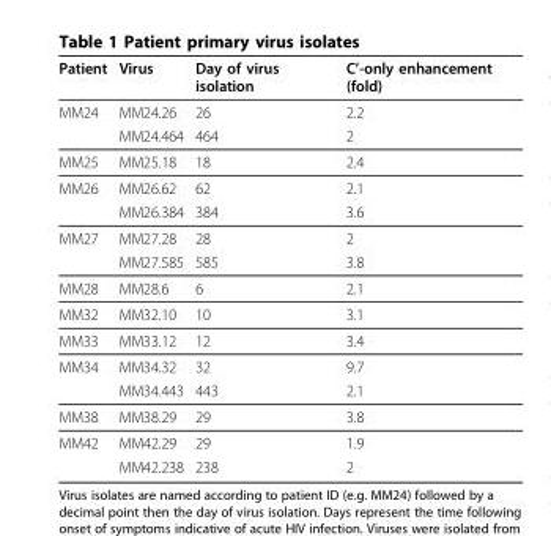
<table><thead><tr><td>Patient</td><td>Virus</td><td>Day of virus isolation</td><td>C’-only enhancement (fold)</td></tr></thead><tbody><tr><td rowspan="2">MM24</td><td>MM24.26</td><td>26</td><td>2.2</td></tr><tr><td>MM24.464</td><td>464</td><td>2</td></tr><tr><td>MM25</td><td>MM25.18</td><td>18</td><td>2.4</td></tr><tr><td rowspan="2">MM26</td><td>MM26.62</td><td>62</td><td>2.1</td></tr><tr><td>MM26.384</td><td>384</td><td>3.6</td></tr><tr><td rowspan="2">MM27</td><td>MM27.28</td><td>28</td><td>2</td></tr><tr><td>MM27.585</td><td>585</td><td>3.8</td></tr><tr><td>MM28</td><td>MM28.6</td><td>6</td><td>2.1</td></tr><tr><td>MM32</td><td>MM32.10</td><td>10</td><td>3.1</td></tr><tr><td>MM33</td><td>MM33.12</td><td>12</td><td>3.4</td></tr><tr><td rowspan="2">MM34</td><td>MM34.32</td><td>32</td><td>9.7</td></tr><tr><td>MM34.443</td><td>443</td><td>2.1</td></tr><tr><td>MM38</td><td>MM38.29</td><td>29</td><td>3.8</td></tr><tr><td rowspan="2">MM42</td><td>MM42.29</td><td>29</td><td>1.9</td></tr><tr><td>MM42.238</td><td>238</td><td>2</td></tr></tbody></table>